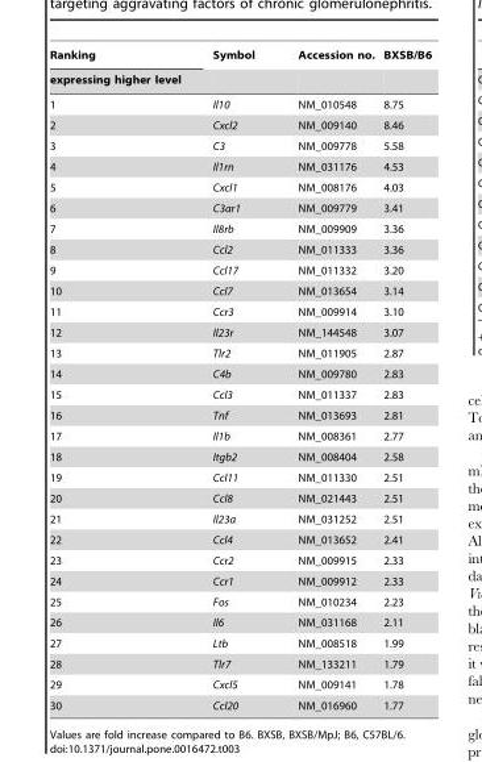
<table><thead><tr><td rowspan="2">Ranking expressing higher level</td><td rowspan="2">Symbol</td><td rowspan="2">Accession no.</td><td rowspan="2">BXSB/B6</td></tr><tr></tr></thead><tbody><tr><td>1</td><td>Il10</td><td>NM_010548</td><td>8.75</td></tr><tr><td>2</td><td>Cxcl2</td><td>NM_009140</td><td>8.46</td></tr><tr><td>3</td><td>C3</td><td>NM_009778</td><td>5.58</td></tr><tr><td>4</td><td>Il1rn</td><td>NM_031176</td><td>4.53</td></tr><tr><td>5</td><td>Cxcl1</td><td>NM_008176</td><td>4.03</td></tr><tr><td>6</td><td>C3ar1</td><td>NM_009779</td><td>3.41</td></tr><tr><td>7</td><td>Il8rb</td><td>NM_009909</td><td>3.36</td></tr><tr><td>8</td><td>Ccl2</td><td>NM_011333</td><td>3.36</td></tr><tr><td>9</td><td>Ccl17</td><td>NM_011332</td><td>3.20</td></tr><tr><td>10</td><td>Ccl7</td><td>NM_013654</td><td>3.14</td></tr><tr><td>11</td><td>Ccr3</td><td>NM_009914</td><td>3.10</td></tr><tr><td>12</td><td>Il23r</td><td>NM_144548</td><td>3.07</td></tr><tr><td>13</td><td>Tlr2</td><td>NM_011905</td><td>2.87</td></tr><tr><td>14</td><td>C4b</td><td>NM_009780</td><td>2.83</td></tr><tr><td>15</td><td>Ccl3</td><td>NM_011337</td><td>2.83</td></tr><tr><td>16</td><td>Tnf</td><td>NM_013693</td><td>2.81</td></tr><tr><td>17</td><td>Il1b</td><td>NM_008361</td><td>2.77</td></tr><tr><td>18</td><td>Itgb2</td><td>NM_008404</td><td>2.58</td></tr><tr><td>19</td><td>Ccl11</td><td>NM_011330</td><td>2.51</td></tr><tr><td>20</td><td>Ccl8</td><td>NM_021443</td><td>2.51</td></tr><tr><td>21</td><td>Il23a</td><td>NM_031252</td><td>2.51</td></tr><tr><td>22</td><td>Ccl4</td><td>NM_013652</td><td>2.41</td></tr><tr><td>23</td><td>Ccr2</td><td>NM_009915</td><td>2.33</td></tr><tr><td>24</td><td>Ccr1</td><td>NM_009912</td><td>2.33</td></tr><tr><td>25</td><td>Fos</td><td>NM_010234</td><td>2.23</td></tr><tr><td>26</td><td>Il6</td><td>NM_031168</td><td>2.11</td></tr><tr><td>27</td><td>Ltb</td><td>NM_008518</td><td>1.99</td></tr><tr><td>28</td><td>Tlr7</td><td>NM_133211</td><td>1.79</td></tr><tr><td>29</td><td>Cxcl5</td><td>NM_009141</td><td>1.78</td></tr><tr><td>30</td><td>Ccl20</td><td>NM_016960</td><td>1.77</td></tr></tbody></table>